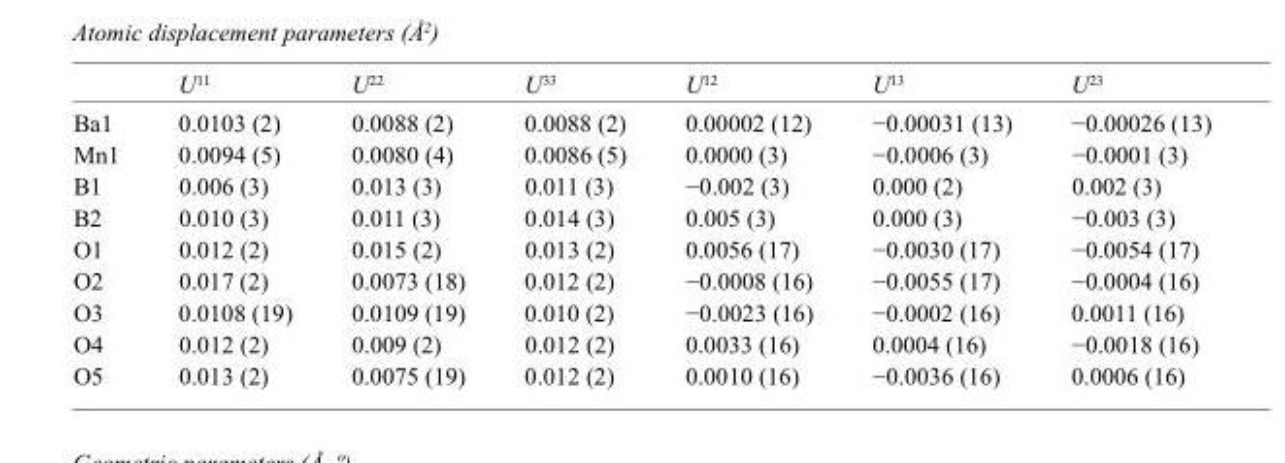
<table><thead><tr><td></td><td>U<sup>11</sup></td><td>U<sup>22</sup></td><td>U<sup>33</sup></td><td>U<sup>12</sup></td><td>U<sup>13</sup></td><td>U<sup>23</sup></td></tr></thead><tbody><tr><td>Ba1</td><td>0.0103 (2)</td><td>0.0088 (2)</td><td>0.0088 (2)</td><td>0.00002 (12)</td><td>−0.00031 (13)</td><td>−0.00026 (13)</td></tr><tr><td>Mn1</td><td>0.0094 (5)</td><td>0.0080 (4)</td><td>0.0086 (5)</td><td>0.0000 (3)</td><td>−0.0006 (3)</td><td>−0.0001 (3)</td></tr><tr><td>B1</td><td>0.006 (3)</td><td>0.013 (3)</td><td>0.011 (3)</td><td>−0.002 (3)</td><td>0.000 (2)</td><td>0.002 (3)</td></tr><tr><td>B2</td><td>0.010 (3)</td><td>0.011 (3)</td><td>0.014 (3)</td><td>0.005 (3)</td><td>0.000 (3)</td><td>−0.003 (3)</td></tr><tr><td>O1</td><td>0.012 (2)</td><td>0.015 (2)</td><td>0.013 (2)</td><td>0.0056 (17)</td><td>−0.0030 (17)</td><td>−0.0054 (17)</td></tr><tr><td>O2</td><td>0.017 (2)</td><td>0.0073 (18)</td><td>0.012 (2)</td><td>−0.0008 (16)</td><td>−0.0055 (17)</td><td>−0.0004 (16)</td></tr><tr><td>O3</td><td>0.0108 (19)</td><td>0.0109 (19)</td><td>0.010 (2)</td><td>−0.0023 (16)</td><td>−0.0002 (16)</td><td>0.0011 (16)</td></tr><tr><td>O4</td><td>0.012 (2)</td><td>0.009 (2)</td><td>0.012 (2)</td><td>0.0033 (16)</td><td>0.0004 (16)</td><td>−0.0018 (16)</td></tr><tr><td>O5</td><td>0.013 (2)</td><td>0.0075 (19)</td><td>0.012 (2)</td><td>0.0010 (16)</td><td>−0.0036 (16)</td><td>0.0006 (16)</td></tr></tbody></table>